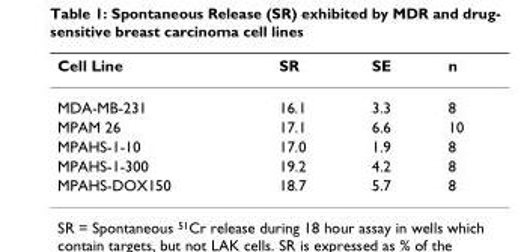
<table><thead><tr><td>Cell Line</td><td>SR</td><td>SE</td><td>n</td></tr></thead><tbody><tr><td>MDA-MB-231</td><td>16.1</td><td>3.3</td><td>8</td></tr><tr><td>MPAM 26</td><td>17.1</td><td>6.6</td><td>10</td></tr><tr><td>MPAHS-1-10</td><td>17.0</td><td>1.9</td><td>8</td></tr><tr><td>MPAHS-1-300</td><td>19.2</td><td>4.2</td><td>8</td></tr><tr><td>MPAHS-DOX150</td><td>18.7</td><td>5.7</td><td>8</td></tr></tbody></table>